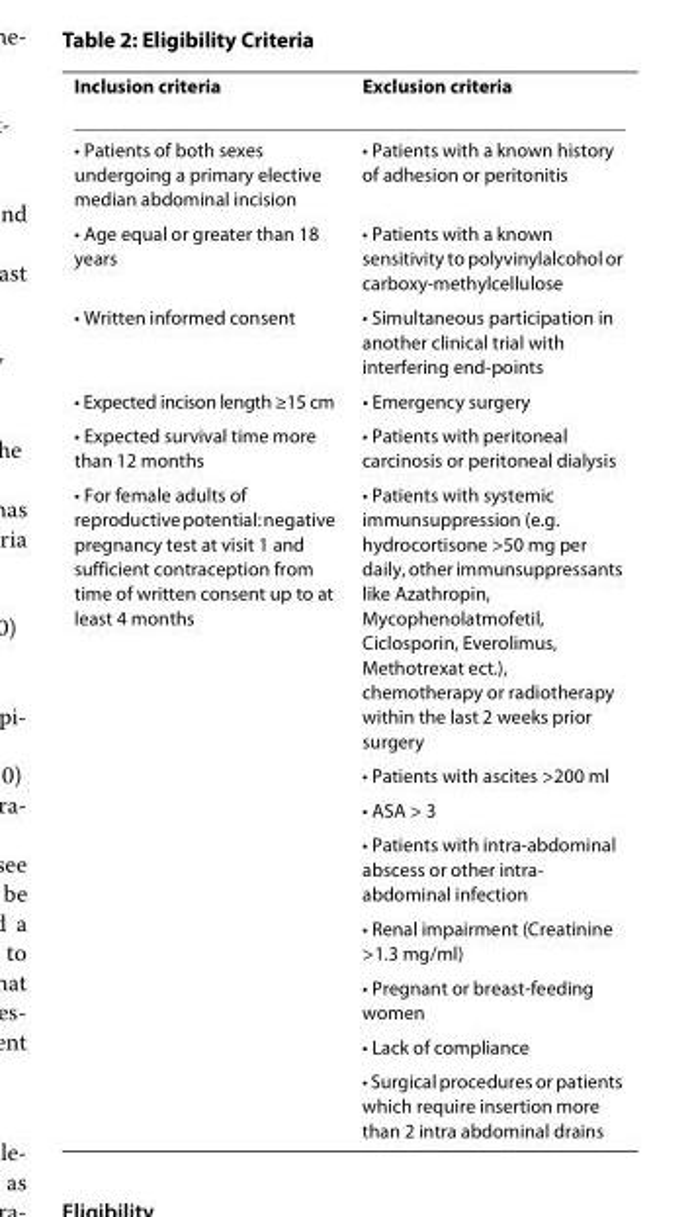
<table><thead><tr><td>Inclusion criteria</td><td>Exclusion criteria</td></tr></thead><tbody><tr><td>• Patients of both sexes undergoing a primary elective median abdominal incision</td><td>• Patients with a known history of adhesion or peritonitis</td></tr><tr><td>• Age equal or greater than 18 years</td><td>• Patients with a known sensitivity to polyvinylalcohol or carboxy-methylcellulose</td></tr><tr><td>• Written informed consent</td><td>• Simultaneous participation in another clinical trial with interfering end-points</td></tr><tr><td>• Expected incison length ≥15 cm</td><td>• Emergency surgery</td></tr><tr><td>• Expected survival time more than 12 months</td><td>• Patients with peritoneal carcinosis or peritoneal dialysis</td></tr><tr><td rowspan="8">• For female adults of reproductive potential: negative pregnancy test at visit 1 and sufficient contraception from time of written consent up to at least 4 months</td><td>• Patients with systemic immunsuppression (e.g. hydrocortisone &gt;50 mg per daily, other immunsuppressants like Azathropin, Mycophenolatmofetil, Ciclosporin, Everolimus, Methotrexat ect.), chemotherapy or radiotherapy within the last 2 weeks prior surgery</td></tr><tr><td>• Patients with ascites &gt;200 ml</td></tr><tr><td>• ASA &gt; 3</td></tr><tr><td>• Patients with intra-abdominal abscess or other intra- abdominal infection</td></tr><tr><td>• Renal impairment (Creatinine &gt;1.3 mg/ml)</td></tr><tr><td>• Pregnant or breast-feeding women</td></tr><tr><td>• Lack of compliance</td></tr><tr><td>• Surgical procedures or patients which require insertion more than 2 intra abdominal drains</td></tr></tbody></table>